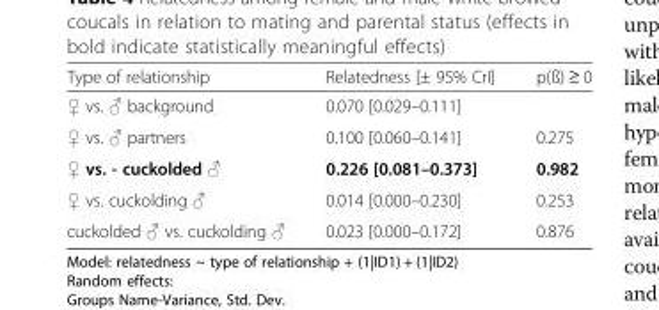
<table><thead><tr><td>Type of relationship</td><td>Relatedness [± 95% CrI]</td><td>p(ß) ≥ 0</td></tr></thead><tbody><tr><td>♀ vs. ♂ background</td><td>0.070 [0.029–0.111]</td><td></td></tr><tr><td>♀ vs. ♂ partners</td><td>0.100 [0.060–0.141]</td><td>0.275</td></tr><tr><td>♀ vs. - cuckolded ♂</td><td>0.226 [0.081–0.373]</td><td>0.982</td></tr><tr><td>♀ vs. cuckolding ♂</td><td>0.014 [0.000–0.230]</td><td>0.253</td></tr><tr><td>cuckolded ♂ vs. cuckolding ♂</td><td>0.023 [0.000–0.172]</td><td>0.876</td></tr></tbody></table>